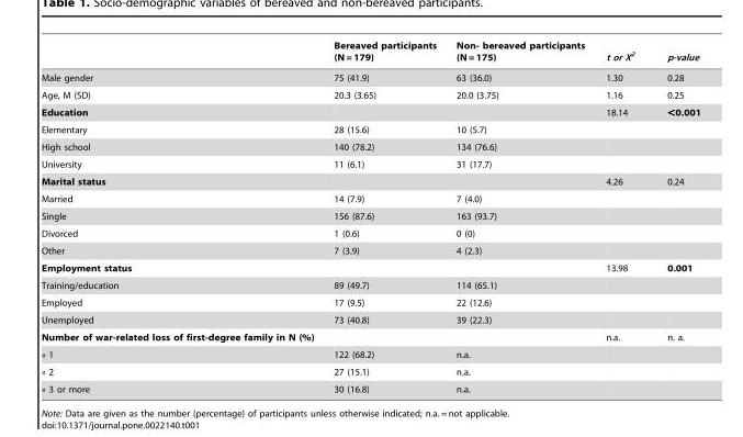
<table><thead><tr><td></td><td>Bereaved participants (N = 179)</td><td>Non- bereaved participants (N = 175)</td><td>t or X<sup>2</sup></td><td>p-value</td></tr></thead><tbody><tr><td>Male gender</td><td>75 (41.9)</td><td>63 (36.0)</td><td>1.30</td><td>0.28</td></tr><tr><td>Age, M (SD)</td><td>20.3 (3.65)</td><td>20.0 (3.75)</td><td>1.16</td><td>0.25</td></tr><tr><td>Education</td><td></td><td></td><td>18.14</td><td>&lt;0.001</td></tr><tr><td>Elementary</td><td>28 (15.6)</td><td>10 (5.7)</td><td></td><td></td></tr><tr><td>High school</td><td>140 (78.2)</td><td>134 (76.6)</td><td></td><td></td></tr><tr><td>University</td><td>11 (6.1)</td><td>31 (17.7)</td><td></td><td></td></tr><tr><td>Marital status</td><td></td><td></td><td>4.26</td><td>0.24</td></tr><tr><td>Married</td><td>14 (7.9)</td><td>7 (4.0)</td><td></td><td></td></tr><tr><td>Single</td><td>156 (87.6)</td><td>163 (93.7)</td><td></td><td></td></tr><tr><td>Divorced</td><td>1 (0.6)</td><td>0 (0)</td><td></td><td></td></tr><tr><td>Other</td><td>7 (3.9)</td><td>4 (2.3)</td><td></td><td></td></tr><tr><td>Employment status</td><td></td><td></td><td>13.98</td><td>0.001</td></tr><tr><td>Training/education</td><td>89 (49.7)</td><td>114 (65.1)</td><td></td><td></td></tr><tr><td>Employed</td><td>17 (9.5)</td><td>22 (12.6)</td><td></td><td></td></tr><tr><td>Unemployed</td><td>73 (40.8)</td><td>39 (22.3)</td><td></td><td></td></tr><tr><td>Number of war-related loss of first-degree family in N (%)</td><td></td><td></td><td>n.a.</td><td>n. a.</td></tr><tr><td>» 1</td><td>122 (68.2)</td><td>n.a.</td><td></td><td></td></tr><tr><td>» 2</td><td>27 (15.1)</td><td>n.a.</td><td></td><td></td></tr><tr><td>» 3 or more</td><td>30 (16.8)</td><td>n.a.</td><td></td><td></td></tr></tbody></table>